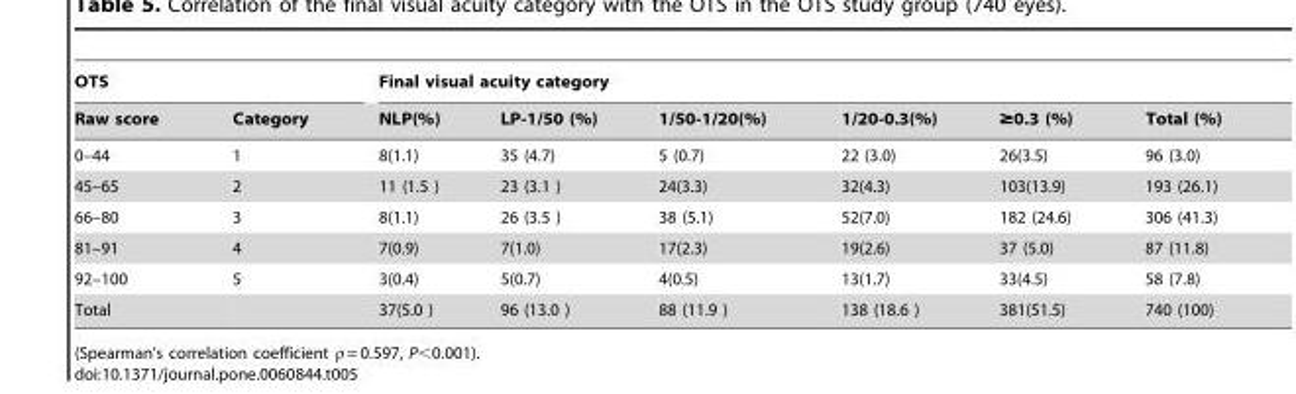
<table><thead><tr><td colspan="2">OTS</td><td colspan="6">Final visual acuity category</td></tr><tr><td>Raw score</td><td>Category</td><td>NLP(%)</td><td>LP-1/50 (%)</td><td>1/50-1/20(%)</td><td>1/20-0.3(%)</td><td>≥0.3 (%)</td><td>Total (%)</td></tr></thead><tbody><tr><td>0–44</td><td>1</td><td>8(1.1)</td><td>35 (4.7)</td><td>5 (0.7)</td><td>22 (3.0)</td><td>26(3.5)</td><td>96 (3.0)</td></tr><tr><td>45–65</td><td>2</td><td>11 (1.5 )</td><td>23 (3.1 )</td><td>24(3.3)</td><td>32(4.3)</td><td>103(13.9)</td><td>193 (26.1)</td></tr><tr><td>66–80</td><td>3</td><td>8(1.1)</td><td>26 (3.5 )</td><td>38 (5.1)</td><td>52(7.0)</td><td>182 (24.6)</td><td>306 (41.3)</td></tr><tr><td>81–91</td><td>4</td><td>7(0.9)</td><td>7(1.0)</td><td>17(2.3)</td><td>19(2.6)</td><td>37 (5.0)</td><td>87 (11.8)</td></tr><tr><td>92–100</td><td>5</td><td>3(0.4)</td><td>5(0.7)</td><td>4(0.5)</td><td>13(1.7)</td><td>33(4.5)</td><td>58 (7.8)</td></tr><tr><td>Total</td><td></td><td>37(5.0 )</td><td>96 (13.0 )</td><td>88 (11.9 )</td><td>138 (18.6 )</td><td>381(51.5)</td><td>740 (100)</td></tr></tbody></table>